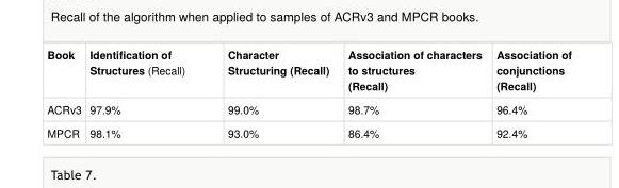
<table><tbody><tr><td>Book</td><td>Identification of Structures (Recall)</td><td>Character Structuring (Recall)</td><td>Association of characters to structures (Recall)</td><td>Association of conjunctions (Recall)</td></tr><tr><td>ACRv3</td><td>97.9%</td><td>99.0%</td><td>98.7%</td><td>96.4%</td></tr><tr><td>MPCR</td><td>98.1%</td><td>93.0%</td><td>86.4%</td><td>92.4%</td></tr></tbody></table>